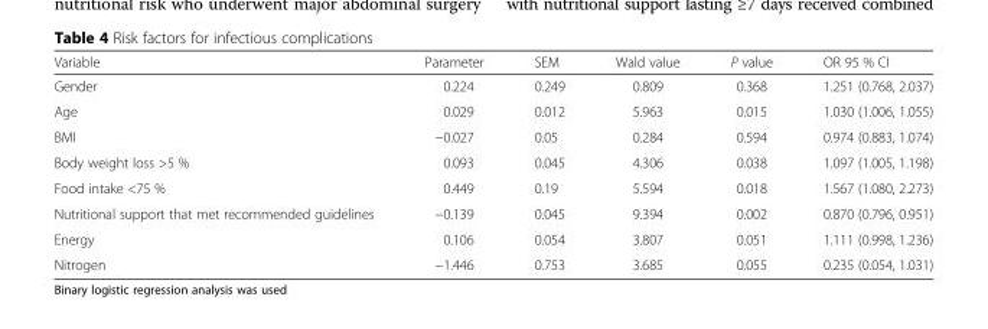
<table><thead><tr><td>Variable</td><td>Parameter</td><td>SEM</td><td>Wald value</td><td>P value</td><td>OR 95 % CI</td></tr></thead><tbody><tr><td>Gender</td><td>0.224</td><td>0.249</td><td>0.809</td><td>0.368</td><td>1.251 (0.768, 2.037)</td></tr><tr><td>Age</td><td>0.029</td><td>0.012</td><td>5.963</td><td>0.015</td><td>1.030 (1.006, 1.055)</td></tr><tr><td>BMI</td><td>−0.027</td><td>0.05</td><td>0.284</td><td>0.594</td><td>0.974 (0.883, 1.074)</td></tr><tr><td>Body weight loss &gt;5 %</td><td>0.093</td><td>0.045</td><td>4.306</td><td>0.038</td><td>1.097 (1.005, 1.198)</td></tr><tr><td>Food intake &lt;75 %</td><td>0.449</td><td>0.19</td><td>5.594</td><td>0.018</td><td>1.567 (1.080, 2.273)</td></tr><tr><td>Nutritional support that met recommended guidelines</td><td>−0.139</td><td>0.045</td><td>9.394</td><td>0.002</td><td>0.870 (0.796, 0.951)</td></tr><tr><td>Energy</td><td>0.106</td><td>0.054</td><td>3.807</td><td>0.051</td><td>1.111 (0.998, 1.236)</td></tr><tr><td>Nitrogen</td><td>−1.446</td><td>0.753</td><td>3.685</td><td>0.055</td><td>0.235 (0.054, 1.031)</td></tr></tbody></table>